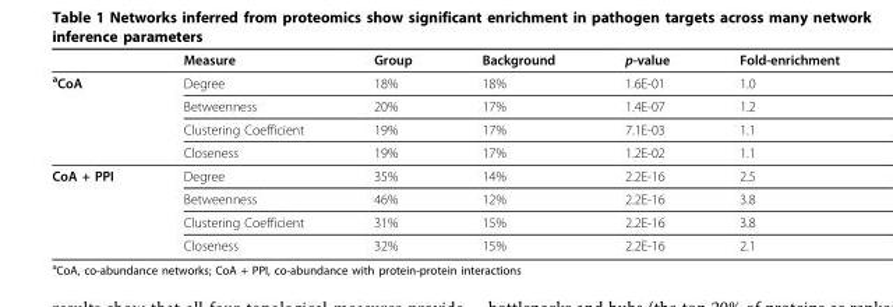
<table><thead><tr><td></td><td>Measure</td><td>Group</td><td>Background</td><td>p-value</td><td>Fold-enrichment</td></tr></thead><tbody><tr><td rowspan="4"><sup>a</sup>CoA</td><td>Degree</td><td>18%</td><td>18%</td><td>1.6E-01</td><td>1.0</td></tr><tr><td>Betweenness</td><td>20%</td><td>17%</td><td>1.4E-07</td><td>1.2</td></tr><tr><td>Clustering Coefficient</td><td>19%</td><td>17%</td><td>7.1E-03</td><td>1.1</td></tr><tr><td>Closeness</td><td>19%</td><td>17%</td><td>1.2E-02</td><td>1.1</td></tr><tr><td rowspan="4">CoA + PPI</td><td>Degree</td><td>35%</td><td>14%</td><td>2.2E-16</td><td>2.5</td></tr><tr><td>Betweenness</td><td>46%</td><td>12%</td><td>2.2E-16</td><td>3.8</td></tr><tr><td>Clustering Coefficient</td><td>31%</td><td>15%</td><td>2.2E-16</td><td>3.8</td></tr><tr><td>Closeness</td><td>32%</td><td>15%</td><td>2.2E-16</td><td>2.1</td></tr></tbody></table>